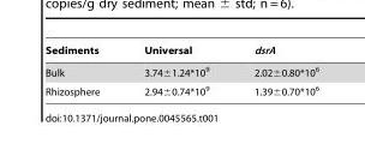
<table><thead><tr><td>Sediments</td><td>Universal</td><td>dsrA</td></tr></thead><tbody><tr><td>Bulk</td><td>3.74±1.24*10<sup>9</sup></td><td>2.02±0.80*10<sup>6</sup></td></tr><tr><td>Rhizosphere</td><td>2.94±0.74*10<sup>9</sup></td><td>1.39±0.70*10<sup>6</sup></td></tr></tbody></table>